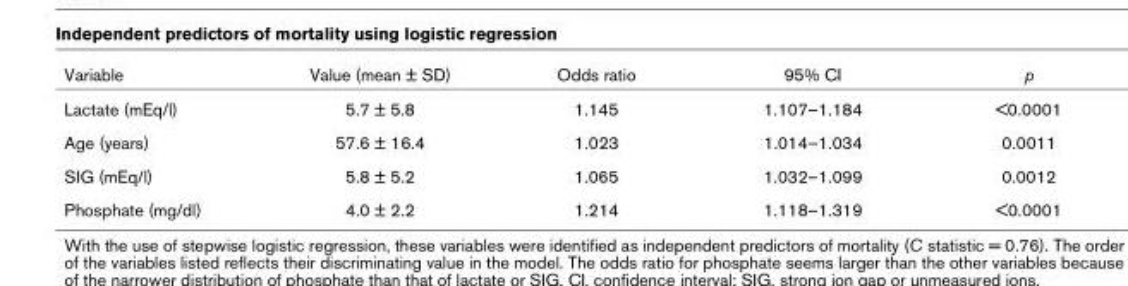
<table><thead><tr><td>Variable</td><td>Value (mean ± SD)</td><td>Odds ratio</td><td>95% CI</td><td>p</td></tr></thead><tbody><tr><td>Lactate (mEq/l)</td><td>5.7 ± 5.8</td><td>1.145</td><td>1.107–1.184</td><td>&lt;0.0001</td></tr><tr><td>Age (years)</td><td>57.6 ± 16.4</td><td>1.023</td><td>1.014–1.034</td><td>0.0011</td></tr><tr><td>SIG (mEq/l)</td><td>5.8 ± 5.2</td><td>1.065</td><td>1.032–1.099</td><td>0.0012</td></tr><tr><td>Phosphate (mg/dl)</td><td>4.0 ± 2.2</td><td>1.214</td><td>1.118–1.319</td><td>&lt;0.0001</td></tr></tbody></table>